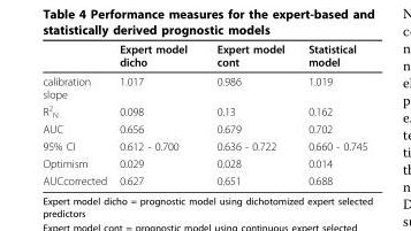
<table><thead><tr><td></td><td>Expert model dicho</td><td>Expert model cont</td><td>Statistical model</td></tr></thead><tbody><tr><td>calibration slope</td><td>1.017</td><td>0.986</td><td>1.019</td></tr><tr><td>R<sup>2</sup> <sub>N</sub></td><td>0.098</td><td>0.13</td><td>0.162</td></tr><tr><td>AUC</td><td>0.656</td><td>0.679</td><td>0.702</td></tr><tr><td>95% CI</td><td>0.612 - 0.700</td><td>0.636 - 0.722</td><td>0.660 - 0.745</td></tr><tr><td>Optimism</td><td>0.029</td><td>0.028</td><td>0.014</td></tr><tr><td>AUCcorrected</td><td>0.627</td><td>0.651</td><td>0.688</td></tr></tbody></table>